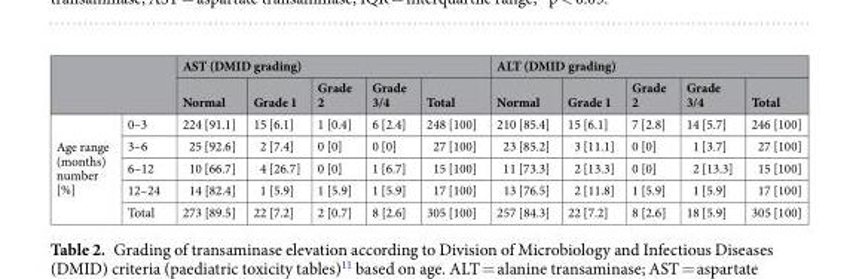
<table><thead><tr><td rowspan="2"></td><td rowspan="2"></td><td colspan="5">AST (DMID grading)</td><td colspan="5">ALT (DMID grading)</td></tr><tr><td>Normal</td><td>Grade 1</td><td>Grade 2</td><td>Grade 3/4</td><td>Total</td><td>Normal</td><td>Grade 1</td><td>Grade 2</td><td>Grade 3/4</td><td>Total</td></tr></thead><tbody><tr><td rowspan="5">Age range (months) number [%]</td><td>0–3</td><td>224 [91.1]</td><td>15 [6.1]</td><td>1 [0.4]</td><td>6 [2.4]</td><td>248 [100]</td><td>210 [85.4]</td><td>15 [6.1]</td><td>7 [2.8]</td><td>14 [5.7]</td><td>246 [100]</td></tr><tr><td>3–6</td><td>25 [92.6]</td><td>2 [7.4]</td><td>0 [0]</td><td>0 [0]</td><td>27 [100]</td><td>23 [85.2]</td><td>3 [11.1]</td><td>0 [0]</td><td>1 [3.7]</td><td>27 [100]</td></tr><tr><td>6–12</td><td>10 [66.7]</td><td>4 [26.7]</td><td>0 [0]</td><td>1 [6.7]</td><td>15 [100]</td><td>11 [73.3]</td><td>2 [13.3]</td><td>0 [0]</td><td>2 [13.3]</td><td>15 [100]</td></tr><tr><td>12–24</td><td>14 [82.4]</td><td>1 [5.9]</td><td>1 [5.9]</td><td>1 [5.9]</td><td>17 [100]</td><td>13 [76.5]</td><td>2 [11.8]</td><td>1 [5.9]</td><td>1 [5.9]</td><td>17 [100]</td></tr><tr><td>Total</td><td>273 [89.5]</td><td>22 [7.2]</td><td>2 [0.7]</td><td>8 [2.6]</td><td>305 [100]</td><td>257 [84.3]</td><td>22 [7.2]</td><td>8 [2.6]</td><td>18 [5.9]</td><td>305 [100]</td></tr></tbody></table>